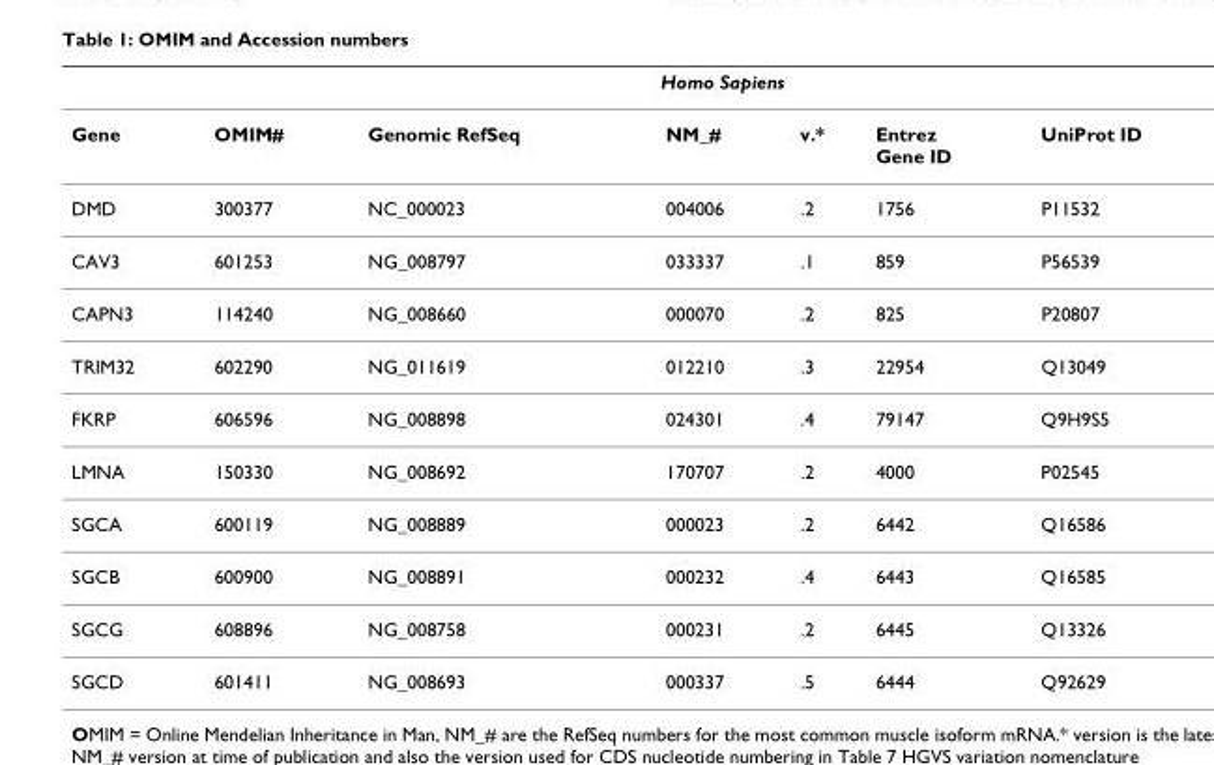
<table><thead><tr><td rowspan="2">Gene</td><td colspan="6">Homo Sapiens</td></tr><tr><td>OMIM#</td><td>Genomic RefSeq</td><td>NM_#</td><td>v.*</td><td>Entrez Gene ID</td><td>UniProt ID</td></tr></thead><tbody><tr><td>DMD</td><td>300377</td><td>NC_000023</td><td>004006</td><td>.2</td><td>1756</td><td>P11532</td></tr><tr><td>CAV3</td><td>601253</td><td>NG_008797</td><td>033337</td><td>.1</td><td>859</td><td>P56539</td></tr><tr><td>CAPN3</td><td>114240</td><td>NG_008660</td><td>000070</td><td>.2</td><td>825</td><td>P20807</td></tr><tr><td>TRIM32</td><td>602290</td><td>NG_011619</td><td>012210</td><td>.3</td><td>22954</td><td>Q13049</td></tr><tr><td>FKRP</td><td>606596</td><td>NG_008898</td><td>024301</td><td>.4</td><td>79147</td><td>Q9H9S5</td></tr><tr><td>LMNA</td><td>150330</td><td>NG_008692</td><td>170707</td><td>.2</td><td>4000</td><td>P02545</td></tr><tr><td>SGCA</td><td>600119</td><td>NG_008889</td><td>000023</td><td>.2</td><td>6442</td><td>Q16586</td></tr><tr><td>SGCB</td><td>600900</td><td>NG_008891</td><td>000232</td><td>.4</td><td>6443</td><td>Q16585</td></tr><tr><td>SGCG</td><td>608896</td><td>NG_008758</td><td>000231</td><td>.2</td><td>6445</td><td>Q13326</td></tr><tr><td>SGCD</td><td>601411</td><td>NG_008693</td><td>000337</td><td>.5</td><td>6444</td><td>Q92629</td></tr></tbody></table>